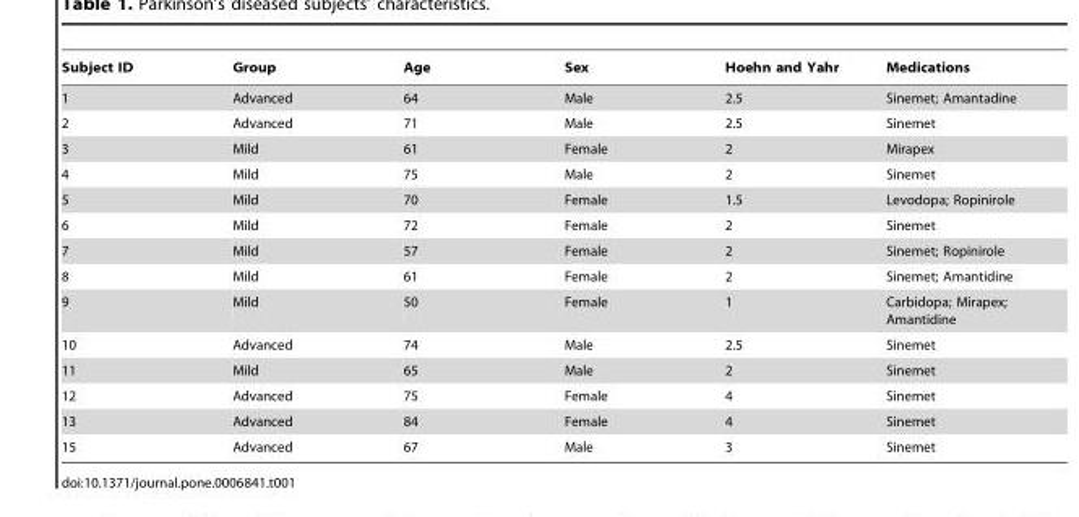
<table><thead><tr><td>Subject ID</td><td>Group</td><td>Age</td><td>Sex</td><td>Hoehn and Yahr</td><td>Medications</td></tr></thead><tbody><tr><td>1</td><td>Advanced</td><td>64</td><td>Male</td><td>2.5</td><td>Sinemet; Amantadine</td></tr><tr><td>2</td><td>Advanced</td><td>71</td><td>Male</td><td>2.5</td><td>Sinemet</td></tr><tr><td>3</td><td>Mild</td><td>61</td><td>Female</td><td>2</td><td>Mirapex</td></tr><tr><td>4</td><td>Mild</td><td>75</td><td>Male</td><td>2</td><td>Sinemet</td></tr><tr><td>5</td><td>Mild</td><td>70</td><td>Female</td><td>1.5</td><td>Levodopa; Ropinirole</td></tr><tr><td>6</td><td>Mild</td><td>72</td><td>Female</td><td>2</td><td>Sinemet</td></tr><tr><td>7</td><td>Mild</td><td>57</td><td>Female</td><td>2</td><td>Sinemet; Ropinirole</td></tr><tr><td>8</td><td>Mild</td><td>61</td><td>Female</td><td>2</td><td>Sinemet; Amantidine</td></tr><tr><td>9</td><td>Mild</td><td>50</td><td>Female</td><td>1</td><td>Carbidopa; Mirapex; Amantidine</td></tr><tr><td>10</td><td>Advanced</td><td>74</td><td>Male</td><td>2.5</td><td>Sinemet</td></tr><tr><td>11</td><td>Mild</td><td>65</td><td>Male</td><td>2</td><td>Sinemet</td></tr><tr><td>12</td><td>Advanced</td><td>75</td><td>Female</td><td>4</td><td>Sinemet</td></tr><tr><td>13</td><td>Advanced</td><td>84</td><td>Female</td><td>4</td><td>Sinemet</td></tr><tr><td>15</td><td>Advanced</td><td>67</td><td>Male</td><td>3</td><td>Sinemet</td></tr></tbody></table>